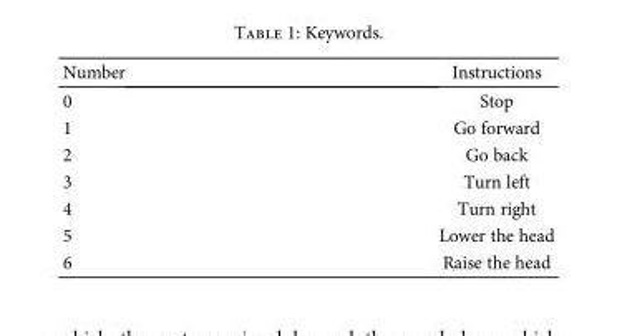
<table><thead><tr><td>Number</td><td>Instructions</td></tr></thead><tbody><tr><td>0</td><td>Stop</td></tr><tr><td>1</td><td>Go forward</td></tr><tr><td>2</td><td>Go back</td></tr><tr><td>3</td><td>Turn left</td></tr><tr><td>4</td><td>Turn right</td></tr><tr><td>5</td><td>Lower the head</td></tr><tr><td>6</td><td>Raise the head</td></tr></tbody></table>